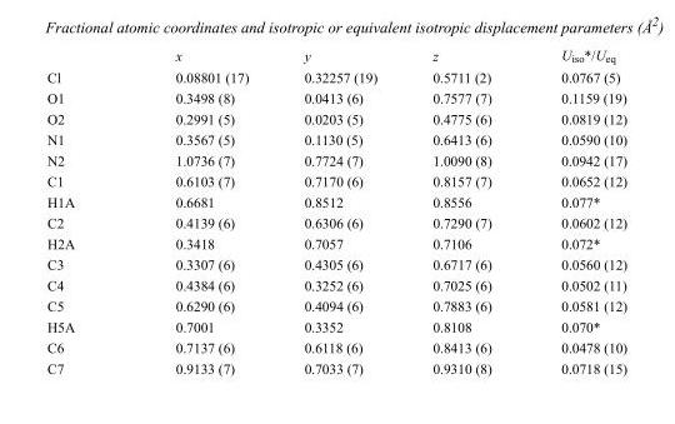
<table><thead><tr><td></td><td>x</td><td>y</td><td>z</td><td>U<sub>iso</sub>*/U<sub>eq</sub></td></tr></thead><tbody><tr><td>Cl</td><td>0.08801 (17)</td><td>0.32257 (19)</td><td>0.5711 (2)</td><td>0.0767 (5)</td></tr><tr><td>O1</td><td>0.3498 (8)</td><td>0.0413 (6)</td><td>0.7577 (7)</td><td>0.1159 (19)</td></tr><tr><td>O2</td><td>0.2991 (5)</td><td>0.0203 (5)</td><td>0.4775 (6)</td><td>0.0819 (12)</td></tr><tr><td>N1</td><td>0.3567 (5)</td><td>0.1130 (5)</td><td>0.6413 (6)</td><td>0.0590 (10)</td></tr><tr><td>N2</td><td>1.0736 (7)</td><td>0.7724 (7)</td><td>1.0090 (8)</td><td>0.0942 (17)</td></tr><tr><td>C1</td><td>0.6103 (7)</td><td>0.7170 (6)</td><td>0.8157 (7)</td><td>0.0652 (12)</td></tr><tr><td>H1A</td><td>0.6681</td><td>0.8512</td><td>0.8556</td><td>0.077*</td></tr><tr><td>C2</td><td>0.4139 (6)</td><td>0.6306 (6)</td><td>0.7290 (7)</td><td>0.0602 (12)</td></tr><tr><td>H2A</td><td>0.3418</td><td>0.7057</td><td>0.7106</td><td>0.072*</td></tr><tr><td>C3</td><td>0.3307 (6)</td><td>0.4305 (6)</td><td>0.6717 (6)</td><td>0.0560 (12)</td></tr><tr><td>C4</td><td>0.4384 (6)</td><td>0.3252 (6)</td><td>0.7025 (6)</td><td>0.0502 (11)</td></tr><tr><td>C5</td><td>0.6290 (6)</td><td>0.4094 (6)</td><td>0.7883 (6)</td><td>0.0581 (12)</td></tr><tr><td>H5A</td><td>0.7001</td><td>0.3352</td><td>0.8108</td><td>0.070*</td></tr><tr><td>C6</td><td>0.7137 (6)</td><td>0.6118 (6)</td><td>0.8413 (6)</td><td>0.0478 (10)</td></tr><tr><td>C7</td><td>0.9133 (7)</td><td>0.7033 (7)</td><td>0.9310 (8)</td><td>0.0718 (15)</td></tr></tbody></table>